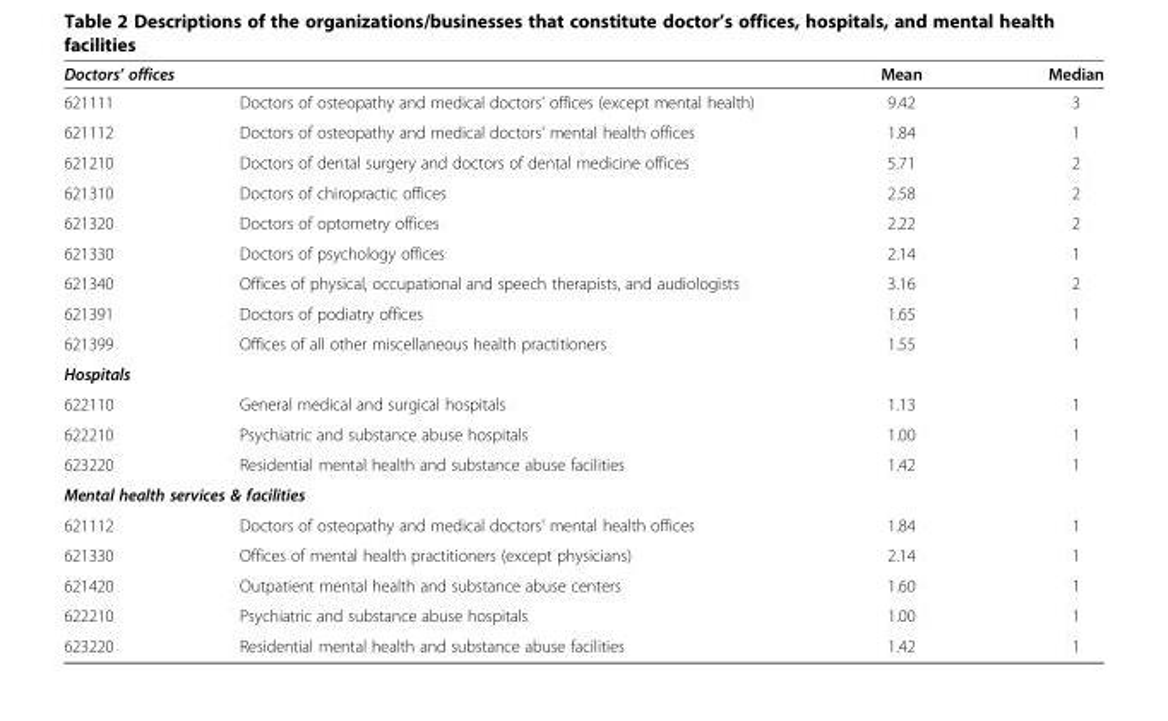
<table><thead><tr><td colspan="2">Doctors’ offices</td><td rowspan="2">Mean 9.42</td><td rowspan="2">Median 3</td></tr><tr><td>621111</td><td>Doctors of osteopathy and medical doctors&#x27; offices (except mental health)</td></tr></thead><tbody><tr><td>621112</td><td>Doctors of osteopathy and medical doctors&#x27; mental health offices</td><td>1.84</td><td>1</td></tr><tr><td>621210</td><td>Doctors of dental surgery and doctors of dental medicine offices</td><td>5.71</td><td>2</td></tr><tr><td>621310</td><td>Doctors of chiropractic offices</td><td>2.58</td><td>2</td></tr><tr><td>621320</td><td>Doctors of optometry offices</td><td>2.22</td><td>2</td></tr><tr><td>621330</td><td>Doctors of psychology offices</td><td>2.14</td><td>1</td></tr><tr><td>621340</td><td>Offices of physical, occupational and speech therapists, and audiologists</td><td>3.16</td><td>2</td></tr><tr><td>621391</td><td>Doctors of podiatry offices</td><td>1.65</td><td>1</td></tr><tr><td>621399</td><td>Offices of all other miscellaneous health practitioners</td><td>1.55</td><td>1</td></tr><tr><td colspan="4">Hospitals</td></tr><tr><td>622110</td><td>General medical and surgical hospitals</td><td>1.13</td><td>1</td></tr><tr><td>622210</td><td>Psychiatric and substance abuse hospitals</td><td>1.00</td><td>1</td></tr><tr><td>623220</td><td>Residential mental health and substance abuse facilities</td><td>1.42</td><td>1</td></tr><tr><td colspan="4">Mental health services &amp; facilities</td></tr><tr><td>621112</td><td>Doctors of osteopathy and medical doctors&#x27; mental health offices</td><td>1.84</td><td>1</td></tr><tr><td>621330</td><td>Offices of mental health practitioners (except physicians)</td><td>2.14</td><td>1</td></tr><tr><td>621420</td><td>Outpatient mental health and substance abuse centers</td><td>1.60</td><td>1</td></tr><tr><td>622210</td><td>Psychiatric and substance abuse hospitals</td><td>1.00</td><td>1</td></tr><tr><td>623220</td><td>Residential mental health and substance abuse facilities</td><td>1.42</td><td>1</td></tr></tbody></table>